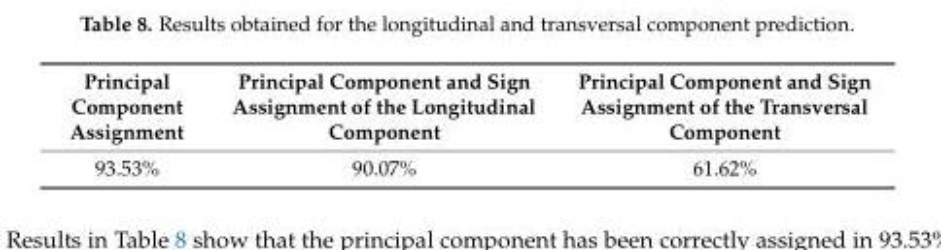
<table><thead><tr><td>Principal Component Assignment</td><td>Principal Component and Sign Assignment of the Longitudinal Component</td><td>Principal Component and Sign Assignment of the Transversal Component</td></tr></thead><tbody><tr><td>93.53%</td><td>90.07%</td><td>61.62%</td></tr></tbody></table>